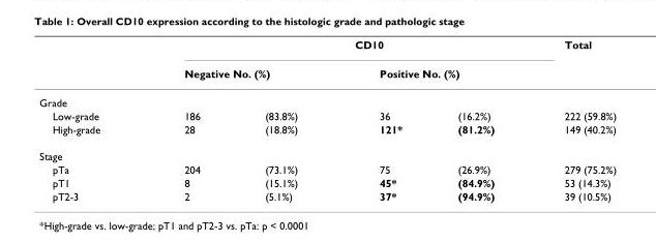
<table><thead><tr><td rowspan="3">Grade</td><td colspan="4">CD10</td><td rowspan="3">Total</td></tr><tr><td colspan="2">Negative No. (%)</td><td colspan="2">Positive No. (%)</td></tr><tr><td></td><td></td><td></td><td></td></tr></thead><tbody><tr><td>Low-grade</td><td>186</td><td>(83.8%)</td><td>36</td><td>(16.2%)</td><td>222 (59.8%)</td></tr><tr><td>High-grade</td><td>28</td><td>(18.8%)</td><td>121*</td><td>(81.2%)</td><td>149 (40.2%)</td></tr><tr><td colspan="6">Stage</td></tr><tr><td>pTa</td><td>204</td><td>(73.1%)</td><td>75</td><td>(26.9%)</td><td>279 (75.2%)</td></tr><tr><td>pT1</td><td>8</td><td>(15.1%)</td><td>45*</td><td>(84.9%)</td><td>53 (14.3%)</td></tr><tr><td>pT2-3</td><td>2</td><td>(5.1%)</td><td>37*</td><td>(94.9%)</td><td>39 (10.5%)</td></tr></tbody></table>